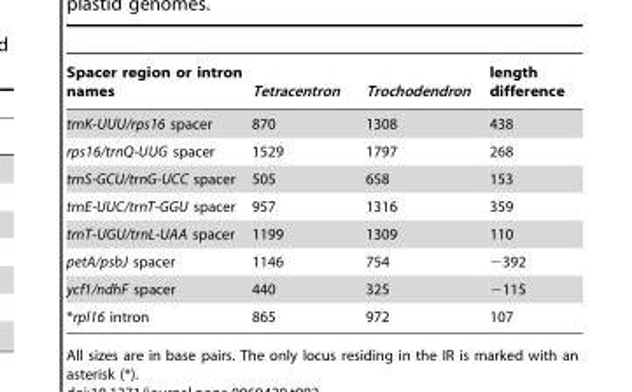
<table><thead><tr><td>Spacer region or intron names</td><td>Tetracentron</td><td>Trochodendron</td><td>length difference</td></tr></thead><tbody><tr><td>trnK-UUU/rps16 spacer</td><td>870</td><td>1308</td><td>438</td></tr><tr><td>rps16/trnQ-UUG spacer</td><td>1529</td><td>1797</td><td>268</td></tr><tr><td>trnS-GCU/trnG-UCC spacer</td><td>505</td><td>658</td><td>153</td></tr><tr><td>trnE-UUC/trnT-GGU spacer</td><td>957</td><td>1316</td><td>359</td></tr><tr><td>trnT-UGU/trnL-UAA spacer</td><td>1199</td><td>1309</td><td>110</td></tr><tr><td>petA/psbJ spacer</td><td>1146</td><td>754</td><td>−392</td></tr><tr><td>ycf1/ndhF spacer</td><td>440</td><td>325</td><td>−115</td></tr><tr><td>*rpl16 intron</td><td>865</td><td>972</td><td>107</td></tr></tbody></table>